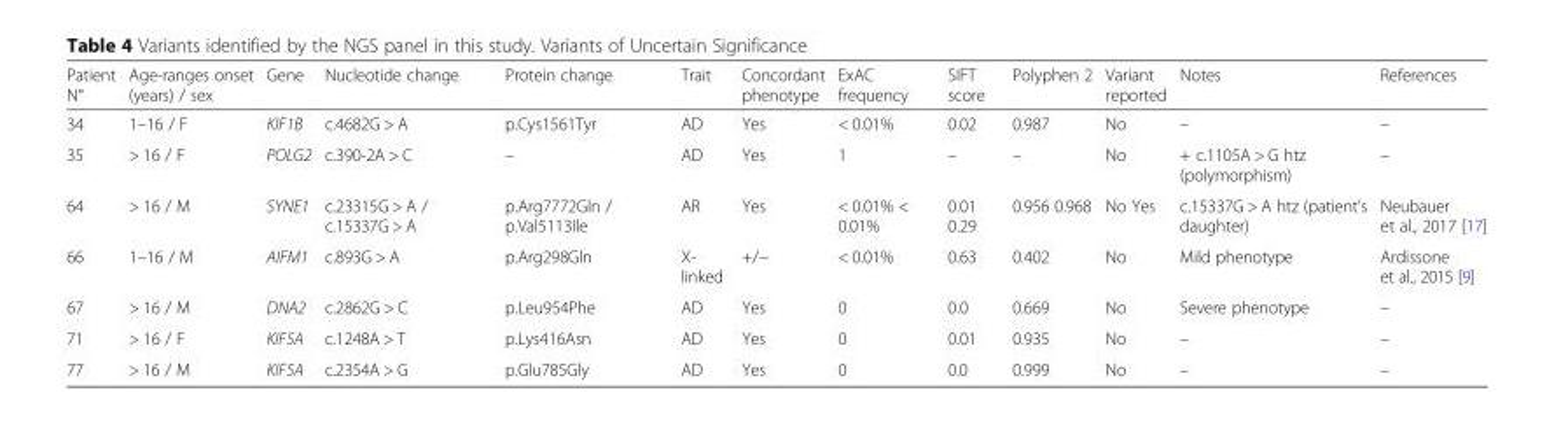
<table><thead><tr><td>Patient N°</td><td>Age-ranges onset (years) / sex</td><td>Gene</td><td>Nucleotide change</td><td>Protein change</td><td>Trait</td><td>Concordant phenotype</td><td>ExAC frequency</td><td>SIFT score</td><td>Polyphen 2</td><td>Variant reported</td><td>Notes</td><td>References</td></tr></thead><tbody><tr><td>34</td><td>1–16 / F</td><td>KIF1B</td><td>c.4682G &gt; A</td><td>p.Cys1561Tyr</td><td>AD</td><td>Yes</td><td>&lt; 0.01%</td><td>0.02</td><td>0.987</td><td>No</td><td>–</td><td>–</td></tr><tr><td>35</td><td>&gt; 16 / F</td><td>POLG2</td><td>c.390-2A &gt; C</td><td>–</td><td>AD</td><td>Yes</td><td>1</td><td>–</td><td>–</td><td>No</td><td>+ c.1105A &gt; G htz (polymorphism)</td><td>–</td></tr><tr><td>64</td><td>&gt; 16 / M</td><td>SYNE1</td><td>c.23315G &gt; A / c.15337G &gt; A</td><td>p.Arg7772Gln / p.Val5113Ile</td><td>AR</td><td>Yes</td><td>&lt; 0.01% &lt; 0.01%</td><td>0.01 0.29</td><td>0.956 0.968</td><td>No Yes</td><td>c.15337G &gt; A htz (patient’s daughter)</td><td>Neubauer et al., 2017 [17]</td></tr><tr><td>66</td><td>1–16 / M</td><td>AIFM1</td><td>c.893G &gt; A</td><td>p.Arg298Gln</td><td>X- linked</td><td>+/−</td><td>&lt; 0.01%</td><td>0.63</td><td>0.402</td><td>No</td><td>Mild phenotype</td><td>Ardissone et al., 2015 [9]</td></tr><tr><td>67</td><td>&gt; 16 / M</td><td>DNA2</td><td>c.2862G &gt; C</td><td>p.Leu954Phe</td><td>AD</td><td>Yes</td><td>0</td><td>0.0</td><td>0.669</td><td>No</td><td>Severe phenotype</td><td>–</td></tr><tr><td>71</td><td>&gt; 16 / F</td><td>KIF5A</td><td>c.1248A &gt; T</td><td>p.Lys416Asn</td><td>AD</td><td>Yes</td><td>0</td><td>0.01</td><td>0.935</td><td>No</td><td>–</td><td>–</td></tr><tr><td>77</td><td>&gt; 16 / M</td><td>KIF5A</td><td>c.2354A &gt; G</td><td>p.Glu785Gly</td><td>AD</td><td>Yes</td><td>0</td><td>0.0</td><td>0.999</td><td>No</td><td>–</td><td>–</td></tr></tbody></table>